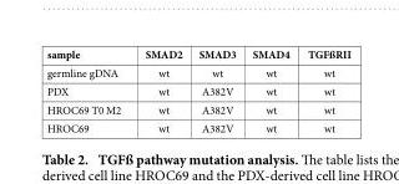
<table><tbody><tr><td>sample</td><td>SMAD2</td><td>SMAD3</td><td>SMAD4</td><td>TGFßRII</td></tr><tr><td>germline gDNA</td><td>wt</td><td>wt</td><td>wt</td><td>wt</td></tr><tr><td>PDX</td><td>wt</td><td>A382V</td><td>wt</td><td>wt</td></tr><tr><td>HROC69 T0 M2</td><td>wt</td><td>A382V</td><td>wt</td><td>wt</td></tr><tr><td>HROC69</td><td>wt</td><td>A382V</td><td>wt</td><td>wt</td></tr></tbody></table>